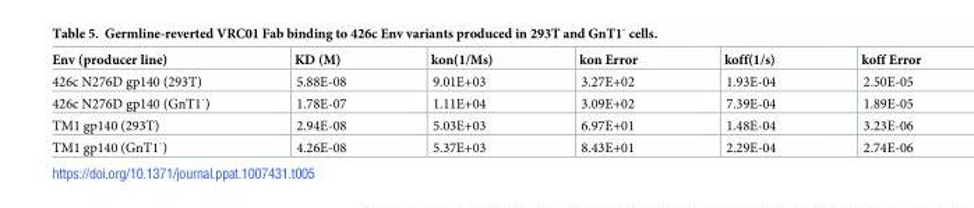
<table><thead><tr><td>Env (producer line)</td><td>KD (M)</td><td>kon(1/Ms)</td><td>kon Error</td><td>koff(1/s)</td><td>koff Error</td></tr></thead><tbody><tr><td>426c N276D gp140 (293T)</td><td>5.88E-08</td><td>9.01E+03</td><td>3.27E+02</td><td>1.93E-04</td><td>2.50E-05</td></tr><tr><td>426c N276D gp140 (GnT1<sup>-</sup>)</td><td>1.78E-07</td><td>1.11E+04</td><td>3.09E+02</td><td>7.39E-04</td><td>1.89E-05</td></tr><tr><td>TM1 gp140 (293T)</td><td>2.94E-08</td><td>5.03E+03</td><td>6.97E+01</td><td>1.48E-04</td><td>3.23E-06</td></tr><tr><td>TM1 gp140 (GnT1<sup>-</sup>)</td><td>4.26E-08</td><td>5.37E+03</td><td>8.43E+01</td><td>2.29E-04</td><td>2.74E-06</td></tr></tbody></table>